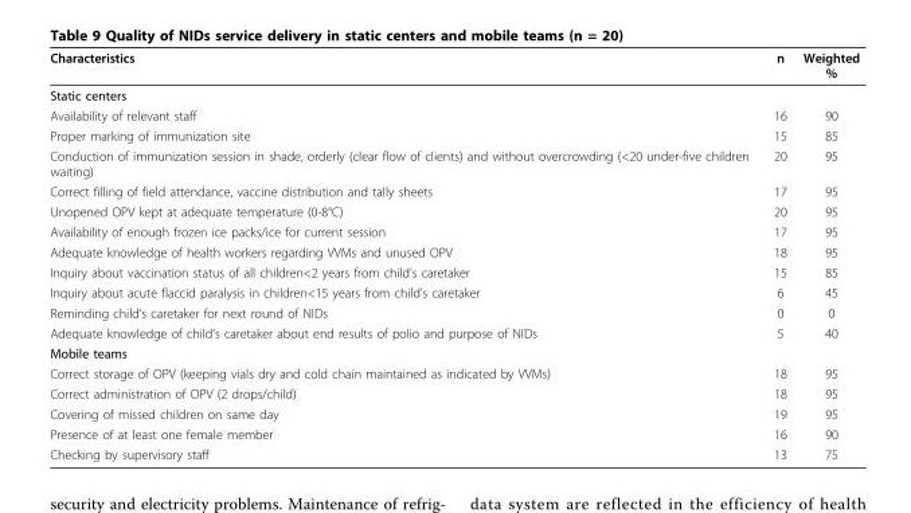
<table><thead><tr><td>Characteristics</td><td>n</td><td>Weighted %</td></tr></thead><tbody><tr><td colspan="3">Static centers</td></tr><tr><td>Availability of relevant staff</td><td>16</td><td>90</td></tr><tr><td>Proper marking of immunization site</td><td>15</td><td>85</td></tr><tr><td>Conduction of immunization session in shade, orderly (clear flow of clients) and without overcrowding (&lt;20 under-five children waiting)</td><td>20</td><td>95</td></tr><tr><td>Correct filling of field attendance, vaccine distribution and tally sheets</td><td>17</td><td>95</td></tr><tr><td>Unopened OPV kept at adequate temperature (0-8°C)</td><td>20</td><td>95</td></tr><tr><td>Availability of enough frozen ice packs/ice for current session</td><td>17</td><td>95</td></tr><tr><td>Adequate knowledge of health workers regarding VVMs and unused OPV</td><td>18</td><td>95</td></tr><tr><td>Inquiry about vaccination status of all children&lt;2 years from child’s caretaker</td><td>15</td><td>85</td></tr><tr><td>Inquiry about acute flaccid paralysis in children&lt;15 years from child’s caretaker</td><td>6</td><td>45</td></tr><tr><td>Reminding child’s caretaker for next round of NIDs</td><td>0</td><td>0</td></tr><tr><td>Adequate knowledge of child’s caretaker about end results of polio and purpose of NIDs</td><td>5</td><td>40</td></tr><tr><td colspan="3">Mobile teams</td></tr><tr><td>Correct storage of OPV (keeping vials dry and cold chain maintained as indicated by VVMs)</td><td>18</td><td>95</td></tr><tr><td>Correct administration of OPV (2 drops/child)</td><td>18</td><td>95</td></tr><tr><td>Covering of missed children on same day</td><td>19</td><td>95</td></tr><tr><td>Presence of at least one female member</td><td>16</td><td>90</td></tr><tr><td>Checking by supervisory staff</td><td>13</td><td>75</td></tr></tbody></table>